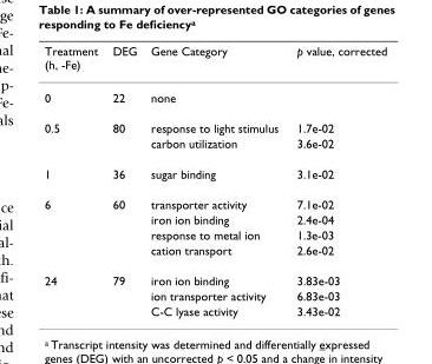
<table><thead><tr><td>Treatment (h, -Fe)</td><td>DEG</td><td>Gene Category</td><td>p value, corrected</td></tr></thead><tbody><tr><td>0</td><td>22</td><td>none</td><td></td></tr><tr><td rowspan="2">0.5</td><td>80</td><td>response to light stimulus</td><td>1.7e-02</td></tr><tr><td></td><td>carbon utilization</td><td>3.6e-02</td></tr><tr><td>1</td><td>36</td><td>sugar binding</td><td>3.1e-02</td></tr><tr><td rowspan="4">6</td><td>60</td><td>transporter activity</td><td>7.1e-02</td></tr><tr><td></td><td>iron ion binding</td><td>2.4e-04</td></tr><tr><td></td><td>response to metal ion</td><td>1.3e-03</td></tr><tr><td></td><td>cation transport</td><td>2.6e-02</td></tr><tr><td rowspan="3">24</td><td>79</td><td>iron ion binding</td><td>3.83e-03</td></tr><tr><td></td><td>ion transporter activity</td><td>6.83e-03</td></tr><tr><td></td><td>C-C lyase activity</td><td>3.43e-02</td></tr></tbody></table>